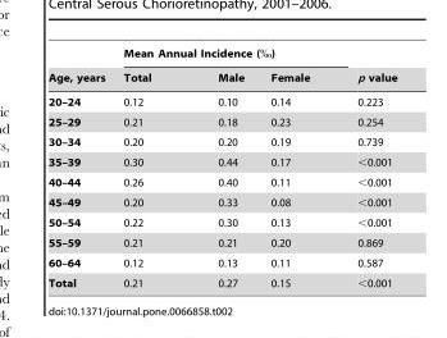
<table><thead><tr><td rowspan="2">Age, years</td><td colspan="3">Mean Annual Incidence (‰)</td><td rowspan="2">p value</td></tr><tr><td>Total</td><td>Male</td><td>Female</td></tr></thead><tbody><tr><td>20–24</td><td>0.12</td><td>0.10</td><td>0.14</td><td>0.223</td></tr><tr><td>25–29</td><td>0.21</td><td>0.18</td><td>0.23</td><td>0.254</td></tr><tr><td>30–34</td><td>0.20</td><td>0.20</td><td>0.19</td><td>0.739</td></tr><tr><td>35–39</td><td>0.30</td><td>0.44</td><td>0.17</td><td>&lt;0.001</td></tr><tr><td>40–44</td><td>0.26</td><td>0.40</td><td>0.11</td><td>&lt;0.001</td></tr><tr><td>45–49</td><td>0.20</td><td>0.33</td><td>0.08</td><td>&lt;0.001</td></tr><tr><td>50–54</td><td>0.22</td><td>0.30</td><td>0.13</td><td>&lt;0.001</td></tr><tr><td>55–59</td><td>0.21</td><td>0.21</td><td>0.20</td><td>0.869</td></tr><tr><td>60–64</td><td>0.12</td><td>0.13</td><td>0.11</td><td>0.587</td></tr><tr><td>Total</td><td>0.21</td><td>0.27</td><td>0.15</td><td>&lt;0.001</td></tr></tbody></table>